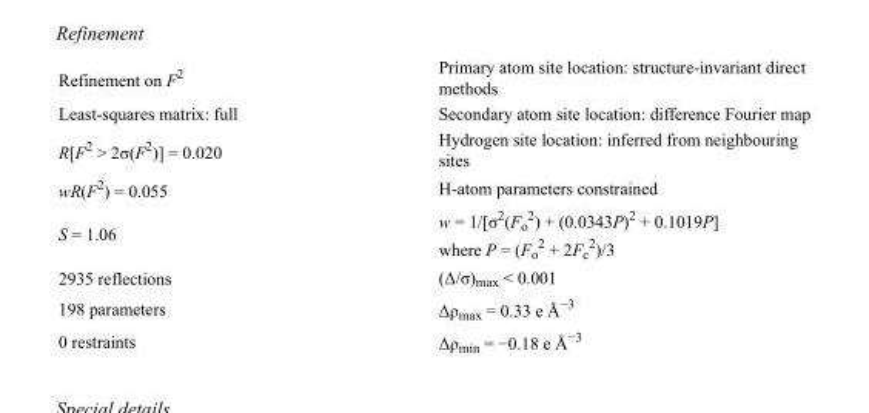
<table><tbody><tr><td>Refinement on F<sup>2</sup></td><td>Primary atom site location: structure-invariant direct methods</td></tr><tr><td>Least-squares matrix: full</td><td>Secondary atom site location: difference Fourier map</td></tr><tr><td>R[F<sup>2</sup> &gt; 2σ(F<sup>2</sup>)] = 0.020</td><td>Hydrogen site location: inferred from neighbouring sites</td></tr><tr><td>wR(F<sup>2</sup>) = 0.055</td><td>H-atom parameters constrained</td></tr><tr><td>S = 1.06</td><td>w = 1/[σ<sup>2</sup>(F<sub>o</sub> <sup>2</sup>) + (0.0343P)<sup>2</sup> + 0.1019P] where P = (F<sub>o</sub> <sup>2</sup> + 2F<sub>c</sub> <sup>2</sup>)/3</td></tr><tr><td>2935 reflections</td><td>(Δ/σ)<sub>max</sub> &lt; 0.001</td></tr><tr><td>198 parameters</td><td>Δρ<sub>max</sub> = 0.33 e Å<sup>−3</sup></td></tr><tr><td>0 restraints</td><td>Δρ<sub>min</sub> = −0.18 e Å<sup>−3</sup></td></tr></tbody></table>